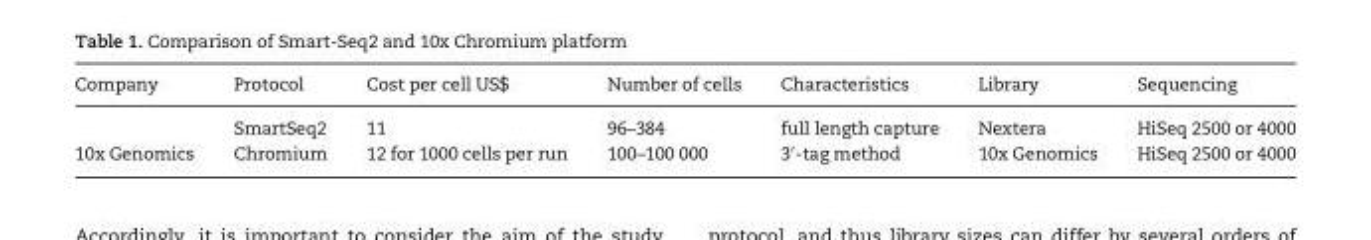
<table><thead><tr><td>Company</td><td>Protocol</td><td>Cost per cell US$</td><td>Number of cells</td><td>Characteristics</td><td>Library</td><td>Sequencing</td></tr></thead><tbody><tr><td></td><td>SmartSeq2</td><td>11</td><td>96–384</td><td>full length capture</td><td>Nextera</td><td>HiSeq 2500 or 4000</td></tr><tr><td>10x Genomics</td><td>Chromium</td><td>12 for 1000 cells per run</td><td>100–100 000</td><td>3′-tag method</td><td>10x Genomics</td><td>HiSeq 2500 or 4000</td></tr></tbody></table>